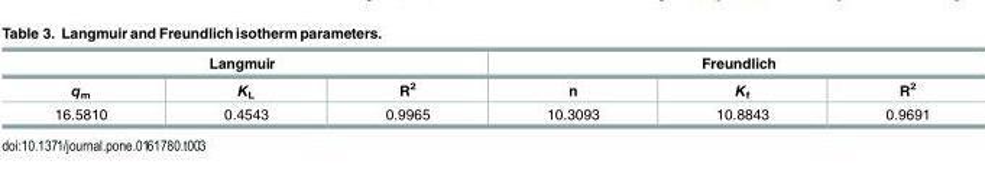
<table><thead><tr><td colspan="3">Langmuir</td><td colspan="3">Freundlich</td></tr><tr><td>q<sub>m</sub></td><td>K<sub>L</sub></td><td>R<sup>2</sup></td><td>n</td><td>K<sub>f</sub></td><td>R<sup>2</sup></td></tr></thead><tbody><tr><td>16.5810</td><td>0.4543</td><td>0.9965</td><td>10.3093</td><td>10.8843</td><td>0.9691</td></tr></tbody></table>